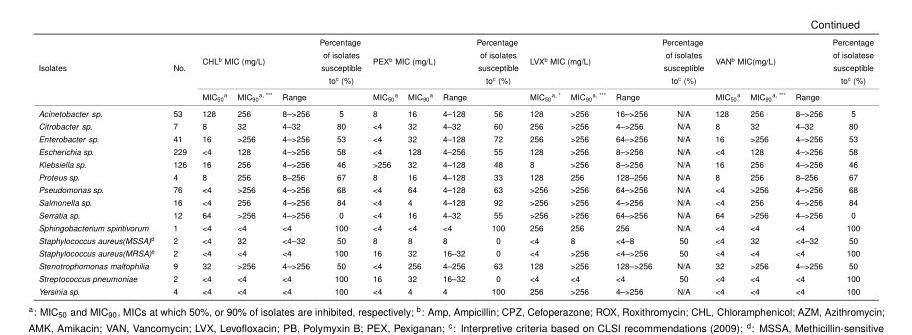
<table><thead><tr><td rowspan="2">Isolates</td><td rowspan="2">No.</td><td colspan="3">CHL<sup>b</sup> MIC (mg/L)</td><td rowspan="2">Percentage of isolates susceptible to<sup>c</sup> (%)</td><td colspan="3">PEX<sup>b</sup> MIC (mg/L)</td><td rowspan="2">Percentage of isolates susceptible to<sup>c</sup> (%)</td><td colspan="3">LVX<sup>b</sup> MIC (mg/L)</td><td rowspan="2">Percentage of isolates susceptible to<sup>c</sup> (%)</td><td colspan="3">VAN<sup>b</sup> MIC(mg/L)</td><td rowspan="2">Percentage of isolatese susceptible toc (%)</td></tr><tr><td>MIC<sub>50</sub><sup>a</sup></td><td>MIC<sub>90</sub><sup>a, ***</sup></td><td>Range</td><td>MIC<sub>50</sub><sup>a</sup></td><td>MIC<sub>90</sub><sup>a</sup></td><td>Range</td><td>MIC<sub>50</sub><sup>a, *</sup></td><td>MIC<sub>90</sub><sup>a, ***</sup></td><td>Range</td><td>MIC<sub>50</sub><sup>a</sup></td><td>MIC<sub>90</sub><sup>a, ***</sup></td><td>Range</td></tr></thead><tbody><tr><td>Acinetobacter sp.</td><td>53</td><td>128</td><td>256</td><td>8–&gt;256</td><td>5</td><td>8</td><td>16</td><td>4–128</td><td>56</td><td>128</td><td>&gt;256</td><td>16–&gt;256</td><td>N/A</td><td>128</td><td>256</td><td>8–&gt;256</td><td>5</td></tr><tr><td>Citrobacter sp.</td><td>7</td><td>8</td><td>32</td><td>4–32</td><td>80</td><td>&lt;4</td><td>32</td><td>4–32</td><td>60</td><td>256</td><td>&gt;256</td><td>4–&gt;256</td><td>N/A</td><td>8</td><td>32</td><td>4–32</td><td>80</td></tr><tr><td>Enterobacter sp.</td><td>41</td><td>16</td><td>&gt;256</td><td>4–&gt;256</td><td>53</td><td>&lt;4</td><td>32</td><td>4–128</td><td>72</td><td>256</td><td>&gt;256</td><td>64–&gt;256</td><td>N/A</td><td>16</td><td>&gt;256</td><td>4–&gt;256</td><td>53</td></tr><tr><td>Escherichia sp.</td><td>229</td><td>&lt;4</td><td>128</td><td>4–&gt;256</td><td>58</td><td>&lt;4</td><td>128</td><td>4–256</td><td>55</td><td>128</td><td>&gt;256</td><td>8–&gt;256</td><td>N/A</td><td>&lt;4</td><td>128</td><td>4–&gt;256</td><td>58</td></tr><tr><td>Klebsiella sp.</td><td>126</td><td>16</td><td>256</td><td>4–&gt;256</td><td>46</td><td>&gt;256</td><td>32</td><td>4–128</td><td>48</td><td>8</td><td>&gt;256</td><td>8–&gt;256</td><td>N/A</td><td>16</td><td>256</td><td>4–&gt;256</td><td>46</td></tr><tr><td>Proteus sp.</td><td>4</td><td>8</td><td>256</td><td>8–256</td><td>67</td><td>8</td><td>16</td><td>4–128</td><td>33</td><td>128</td><td>256</td><td>128–256</td><td>N/A</td><td>8</td><td>256</td><td>8–256</td><td>67</td></tr><tr><td>Pseudomonas sp.</td><td>76</td><td>&lt;4</td><td>&gt;256</td><td>4–&gt;256</td><td>68</td><td>&lt;4</td><td>64</td><td>4–128</td><td>63</td><td>&gt;256</td><td>&gt;256</td><td>64–&gt;256</td><td>N/A</td><td>&lt;4</td><td>&gt;256</td><td>4–&gt;256</td><td>68</td></tr><tr><td>Salmonella sp.</td><td>16</td><td>&lt;4</td><td>256</td><td>4–&gt;256</td><td>84</td><td>&lt;4</td><td>4</td><td>4–128</td><td>92</td><td>&gt;256</td><td>&gt;256</td><td>4–&gt;256</td><td>N/A</td><td>&lt;4</td><td>256</td><td>4–&gt;256</td><td>84</td></tr><tr><td>Serratia sp.</td><td>12</td><td>64</td><td>&gt;256</td><td>4–&gt;256</td><td>0</td><td>&lt;4</td><td>16</td><td>4–32</td><td>55</td><td>&gt;256</td><td>&gt;256</td><td>64–&gt;256</td><td>N/A</td><td>64</td><td>&gt;256</td><td>4–&gt;256</td><td>0</td></tr><tr><td>Sphingobacterium spiritivorum</td><td>1</td><td>&lt;4</td><td>&lt;4</td><td>&lt;4</td><td>100</td><td>&lt;4</td><td>&lt;4</td><td>&lt;4</td><td>100</td><td>256</td><td>256</td><td>256</td><td>N/A</td><td>&lt;4</td><td>&lt;4</td><td>&lt;4</td><td>100</td></tr><tr><td>Staphylococcus aureus(MSSA)<sup>d</sup></td><td>2</td><td>&lt;4</td><td>32</td><td>&lt;4–32</td><td>50</td><td>8</td><td>8</td><td>8</td><td>0</td><td>&lt;4</td><td>8</td><td>&lt;4–8</td><td>50</td><td>&lt;4</td><td>32</td><td>&lt;4–32</td><td>50</td></tr><tr><td>Staphylococcus aureus(MRSA)<sup>e</sup></td><td>2</td><td>&lt;4</td><td>&lt;4</td><td>&lt;4</td><td>100</td><td>16</td><td>32</td><td>16–32</td><td>0</td><td>&lt;4</td><td>&gt;256</td><td>&lt;4–&gt;256</td><td>50</td><td>&lt;4</td><td>&lt;4</td><td>&lt;4</td><td>100</td></tr><tr><td>Stenotrophomonas maltophilia</td><td>9</td><td>32</td><td>&gt;256</td><td>4–&gt;256</td><td>50</td><td>&lt;4</td><td>256</td><td>4–256</td><td>63</td><td>128</td><td>&gt;256</td><td>128–&gt;256</td><td>N/A</td><td>32</td><td>&gt;256</td><td>4–&gt;256</td><td>50</td></tr><tr><td>Streptococcus pneumoniae</td><td>2</td><td>&lt;4</td><td>&lt;4</td><td>&lt;4</td><td>100</td><td>16</td><td>32</td><td>16–32</td><td>0</td><td>&lt;4</td><td>&lt;4</td><td>&lt;4</td><td>50</td><td>&lt;4</td><td>&lt;4</td><td>&lt;4</td><td>100</td></tr><tr><td>Yersinia sp.</td><td>4</td><td>&lt;4</td><td>&lt;4</td><td>&lt;4</td><td>100</td><td>&lt;4</td><td>4</td><td>4</td><td>100</td><td>256</td><td>&gt;256</td><td>4–&gt;256</td><td>N/A</td><td>&lt;4</td><td>&lt;4</td><td>&lt;4</td><td>100</td></tr></tbody></table>